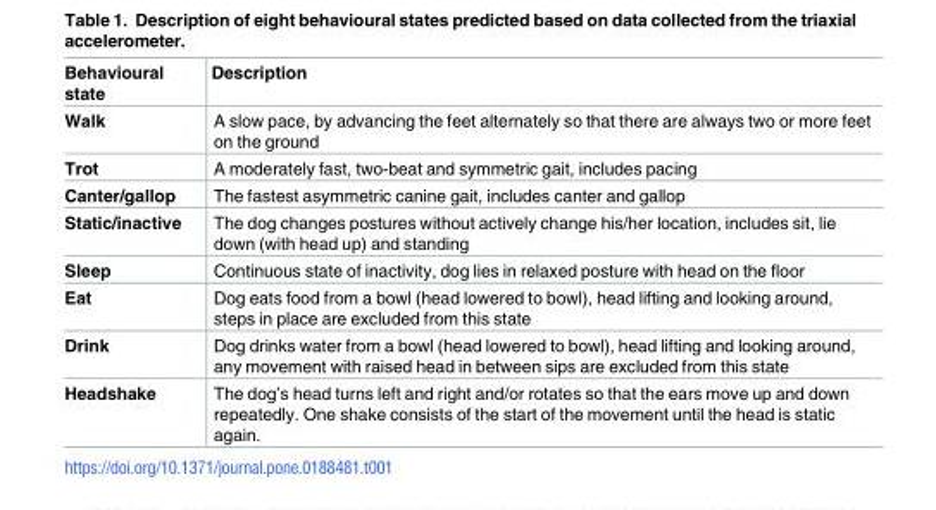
<table><thead><tr><td>Behavioural state</td><td>Description</td></tr></thead><tbody><tr><td>Walk</td><td>A slow pace, by advancing the feet alternately so that there are always two or more feet on the ground</td></tr><tr><td>Trot</td><td>A moderately fast, two-beat and symmetric gait, includes pacing</td></tr><tr><td>Canter/gallop</td><td>The fastest asymmetric canine gait, includes canter and gallop</td></tr><tr><td>Static/inactive</td><td>The dog changes postures without actively change his/her location, includes sit, lie down (with head up) and standing</td></tr><tr><td>Sleep</td><td>Continuous state of inactivity, dog lies in relaxed posture with head on the floor</td></tr><tr><td>Eat</td><td>Dog eats food from a bowl (head lowered to bowl), head lifting and looking around, steps in place are excluded from this state</td></tr><tr><td>Drink</td><td>Dog drinks water from a bowl (head lowered to bowl), head lifting and looking around, any movement with raised head in between sips are excluded from this state</td></tr><tr><td>Headshake</td><td>The dog’s head turns left and right and/or rotates so that the ears move up and down repeatedly. One shake consists of the start of the movement until the head is static again.</td></tr></tbody></table>